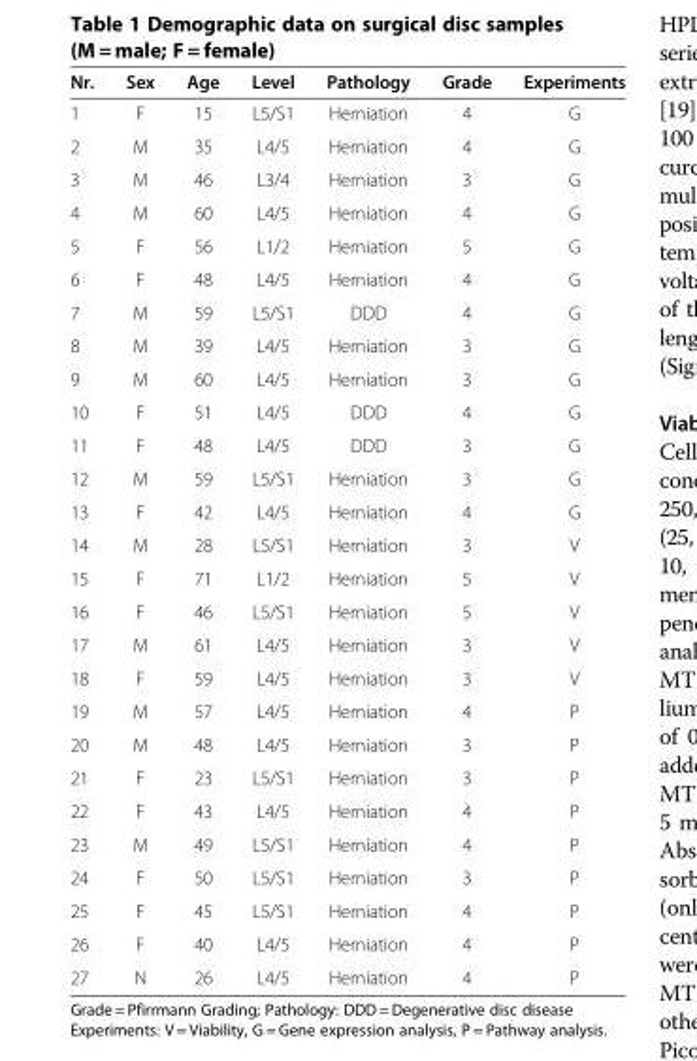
<table><thead><tr><td>Nr.</td><td>Sex</td><td>Age</td><td>Level</td><td>Pathology</td><td>Grade</td><td>Experiments</td></tr></thead><tbody><tr><td>1</td><td>F</td><td>15</td><td>L5/S1</td><td>Herniation</td><td>4</td><td>G</td></tr><tr><td>2</td><td>M</td><td>35</td><td>L4/5</td><td>Herniation</td><td>4</td><td>G</td></tr><tr><td>3</td><td>M</td><td>46</td><td>L3/4</td><td>Herniation</td><td>3</td><td>G</td></tr><tr><td>4</td><td>M</td><td>60</td><td>L4/5</td><td>Herniation</td><td>4</td><td>G</td></tr><tr><td>5</td><td>F</td><td>56</td><td>L1/2</td><td>Herniation</td><td>5</td><td>G</td></tr><tr><td>6</td><td>F</td><td>48</td><td>L4/5</td><td>Herniation</td><td>4</td><td>G</td></tr><tr><td>7</td><td>M</td><td>59</td><td>L5/S1</td><td>DDD</td><td>4</td><td>G</td></tr><tr><td>8</td><td>M</td><td>39</td><td>L4/5</td><td>Herniation</td><td>3</td><td>G</td></tr><tr><td>9</td><td>M</td><td>60</td><td>L4/5</td><td>Herniation</td><td>3</td><td>G</td></tr><tr><td>10</td><td>F</td><td>51</td><td>L4/5</td><td>DDD</td><td>4</td><td>G</td></tr><tr><td>11</td><td>F</td><td>48</td><td>L4/5</td><td>DDD</td><td>3</td><td>G</td></tr><tr><td>12</td><td>M</td><td>59</td><td>L5/S1</td><td>Herniation</td><td>3</td><td>G</td></tr><tr><td>13</td><td>F</td><td>42</td><td>L4/5</td><td>Herniation</td><td>4</td><td>G</td></tr><tr><td>14</td><td>M</td><td>28</td><td>L5/S1</td><td>Herniation</td><td>3</td><td>V</td></tr><tr><td>15</td><td>F</td><td>71</td><td>L1/2</td><td>Herniation</td><td>5</td><td>V</td></tr><tr><td>16</td><td>F</td><td>46</td><td>L5/S1</td><td>Herniation</td><td>5</td><td>V</td></tr><tr><td>17</td><td>M</td><td>61</td><td>L4/5</td><td>Herniation</td><td>3</td><td>V</td></tr><tr><td>18</td><td>F</td><td>59</td><td>L4/5</td><td>Herniation</td><td>3</td><td>V</td></tr><tr><td>19</td><td>M</td><td>57</td><td>L4/5</td><td>Herniation</td><td>4</td><td>P</td></tr><tr><td>20</td><td>M</td><td>48</td><td>L4/5</td><td>Herniation</td><td>3</td><td>P</td></tr><tr><td>21</td><td>F</td><td>23</td><td>L5/S1</td><td>Herniation</td><td>3</td><td>P</td></tr><tr><td>22</td><td>F</td><td>43</td><td>L4/5</td><td>Herniation</td><td>4</td><td>P</td></tr><tr><td>23</td><td>M</td><td>49</td><td>L5/S1</td><td>Herniation</td><td>4</td><td>P</td></tr><tr><td>24</td><td>F</td><td>50</td><td>L5/S1</td><td>Herniation</td><td>3</td><td>P</td></tr><tr><td>25</td><td>F</td><td>45</td><td>L5/S1</td><td>Herniation</td><td>4</td><td>P</td></tr><tr><td>26</td><td>F</td><td>40</td><td>L4/5</td><td>Herniation</td><td>4</td><td>P</td></tr><tr><td>27</td><td>N</td><td>26</td><td>L4/5</td><td>Herniation</td><td>4</td><td>P</td></tr></tbody></table>